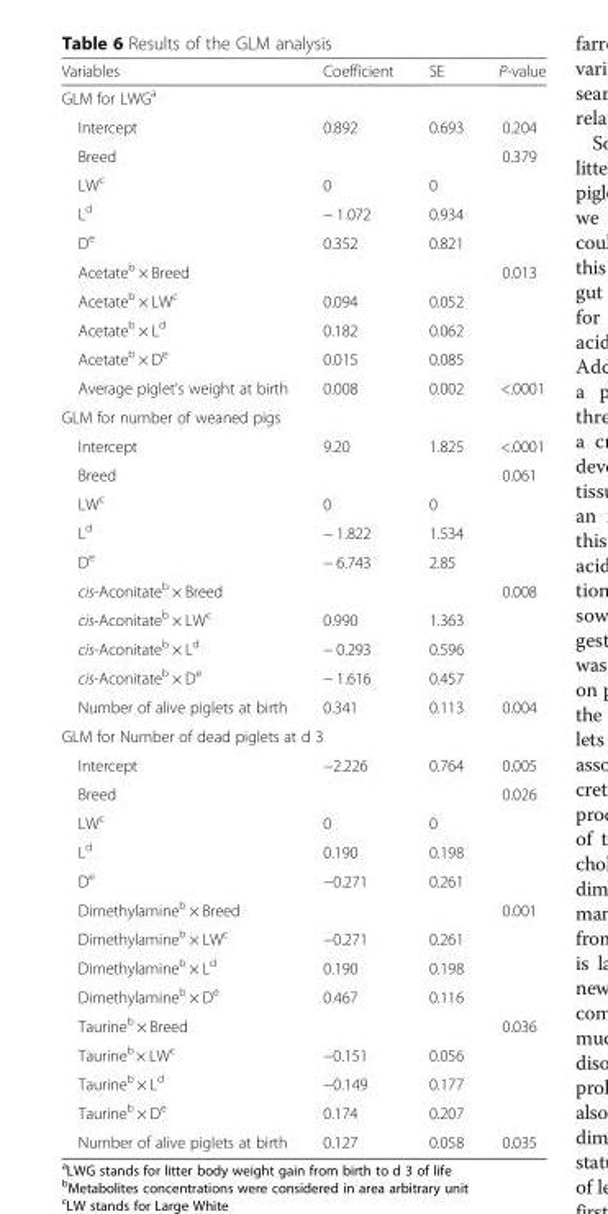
<table><thead><tr><td>Variables</td><td>Coefficient</td><td>SE</td><td>P-value</td></tr></thead><tbody><tr><td colspan="4">GLM for LWG<sup>a</sup></td></tr><tr><td>Intercept</td><td>0.892</td><td>0.693</td><td>0.204</td></tr><tr><td>Breed</td><td></td><td></td><td>0.379</td></tr><tr><td>LW<sup>c</sup></td><td>0</td><td>0</td><td></td></tr><tr><td>L<sup>d</sup></td><td>− 1.072</td><td>0.934</td><td></td></tr><tr><td>D<sup>e</sup></td><td>0.352</td><td>0.821</td><td></td></tr><tr><td>Acetate<sup>b</sup> × Breed</td><td></td><td></td><td>0.013</td></tr><tr><td>Acetate<sup>b</sup> × LW<sup>c</sup></td><td>0.094</td><td>0.052</td><td></td></tr><tr><td>Acetate<sup>b</sup> × L<sup>d</sup></td><td>0.182</td><td>0.062</td><td></td></tr><tr><td>Acetate<sup>b</sup> × D<sup>e</sup></td><td>0.015</td><td>0.085</td><td></td></tr><tr><td>Average piglet’s weight at birth</td><td>0.008</td><td>0.002</td><td>&lt;.0001</td></tr><tr><td colspan="4">GLM for number of weaned pigs</td></tr><tr><td>Intercept</td><td>9.20</td><td>1.825</td><td>&lt;.0001</td></tr><tr><td>Breed</td><td></td><td></td><td>0.061</td></tr><tr><td>LW<sup>c</sup></td><td>0</td><td>0</td><td></td></tr><tr><td>L<sup>d</sup></td><td>− 1.822</td><td>1.534</td><td></td></tr><tr><td>D<sup>e</sup></td><td>− 6.743</td><td>2.85</td><td></td></tr><tr><td>cis-Aconitate<sup>b</sup> × Breed</td><td></td><td></td><td>0.008</td></tr><tr><td>cis-Aconitate<sup>b</sup> × LW<sup>c</sup></td><td>0.990</td><td>1.363</td><td></td></tr><tr><td>cis-Aconitate<sup>b</sup> × L<sup>d</sup></td><td>− 0.293</td><td>0.596</td><td></td></tr><tr><td>cis-Aconitate<sup>b</sup> × D<sup>e</sup></td><td>− 1.616</td><td>0.457</td><td></td></tr><tr><td>Number of alive piglets at birth</td><td>0.341</td><td>0.113</td><td>0.004</td></tr><tr><td colspan="4">GLM for Number of dead piglets at d 3</td></tr><tr><td>Intercept</td><td>−2.226</td><td>0.764</td><td>0.005</td></tr><tr><td>Breed</td><td></td><td></td><td>0.026</td></tr><tr><td>LW<sup>c</sup></td><td>0</td><td>0</td><td></td></tr><tr><td>L<sup>d</sup></td><td>0.190</td><td>0.198</td><td></td></tr><tr><td>D<sup>e</sup></td><td>−0.271</td><td>0.261</td><td></td></tr><tr><td>Dimethylamine<sup>b</sup> × Breed</td><td></td><td></td><td>0.001</td></tr><tr><td>Dimethylamine<sup>b</sup> × LW<sup>c</sup></td><td>−0.271</td><td>0.261</td><td></td></tr><tr><td>Dimethylamine<sup>b</sup> × L<sup>d</sup></td><td>0.190</td><td>0.198</td><td></td></tr><tr><td>Dimethylamine<sup>b</sup> × D<sup>e</sup></td><td>0.467</td><td>0.116</td><td></td></tr><tr><td>Taurine<sup>b</sup> × Breed</td><td></td><td></td><td>0.036</td></tr><tr><td>Taurine<sup>b</sup>× LW<sup>c</sup></td><td>−0.151</td><td>0.056</td><td></td></tr><tr><td>Taurine<sup>b</sup> × L<sup>d</sup></td><td>−0.149</td><td>0.177</td><td></td></tr><tr><td>Taurine<sup>b</sup> × D<sup>e</sup></td><td>0.174</td><td>0.207</td><td></td></tr><tr><td>Number of alive piglets at birth</td><td>0.127</td><td>0.058</td><td>0.035</td></tr></tbody></table>